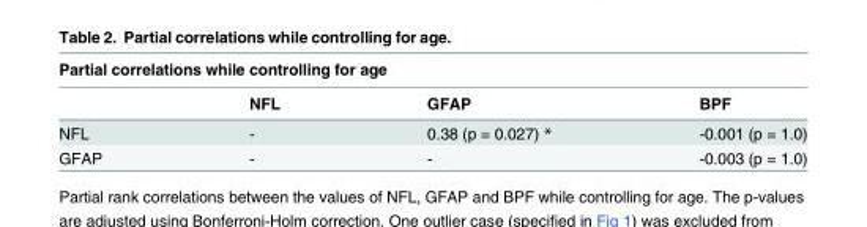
<table><thead><tr><td colspan="4">Partial correlations while controlling for age</td></tr><tr><td></td><td>NFL</td><td>GFAP</td><td>BPF</td></tr></thead><tbody><tr><td>NFL</td><td>-</td><td>0.38 (p = 0.027) *</td><td>-0.001 (p = 1.0)</td></tr><tr><td>GFAP</td><td>-</td><td>-</td><td>-0.003 (p = 1.0)</td></tr></tbody></table>